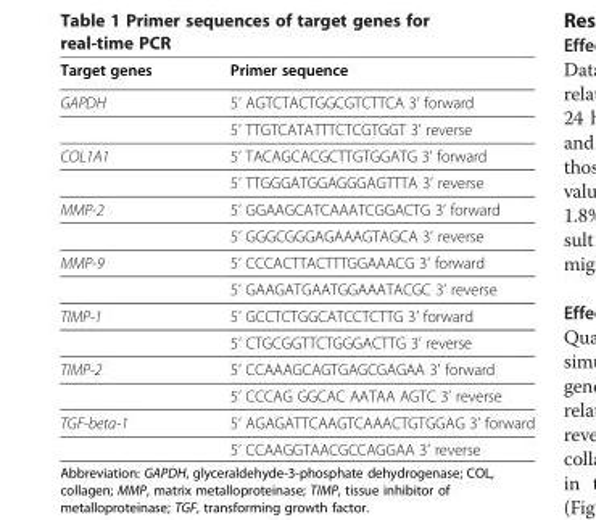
<table><thead><tr><td>Target genes</td><td>Primer sequence</td></tr></thead><tbody><tr><td rowspan="2">GAPDH</td><td>5’ AGTCTACTGGCGTCTTCA 3’ forward</td></tr><tr><td>5’ TTGTCATATTTCTCGTGGT 3’ reverse</td></tr><tr><td rowspan="2">COL1A1</td><td>5’ TACAGCACGCTTGTGGATG 3’ forward</td></tr><tr><td>5’ TTGGGATGGAGGGAGTTTA 3’ reverse</td></tr><tr><td rowspan="2">MMP-2</td><td>5’ GGAAGCATCAAATCGGACTG 3’ forward</td></tr><tr><td>5’ GGGCGGGAGAAAGTAGCA 3’ reverse</td></tr><tr><td rowspan="2">MMP-9</td><td>5’ CCCACTTACTTTGGAAACG 3’ forward</td></tr><tr><td>5’ GAAGATGAATGGAAATACGC 3’ reverse</td></tr><tr><td rowspan="2">TIMP-1</td><td>5’ GCCTCTGGCATCCTCTTG 3’ forward</td></tr><tr><td>5’ CTGCGGTTCTGGGACTTG 3’ reverse</td></tr><tr><td rowspan="2">TIMP-2</td><td>5’ CCAAAGCAGTGAGCGAGAA 3’ forward</td></tr><tr><td>5’ CCCAG GGCAC AATAA AGTC 3’ reverse</td></tr><tr><td rowspan="2">TGF-beta-1</td><td>5’ AGAGATTCAAGTCAAACTGTGGAG 3’ forward</td></tr><tr><td>5’ CCAAGGTAACGCCAGGAA 3’ reverse</td></tr></tbody></table>